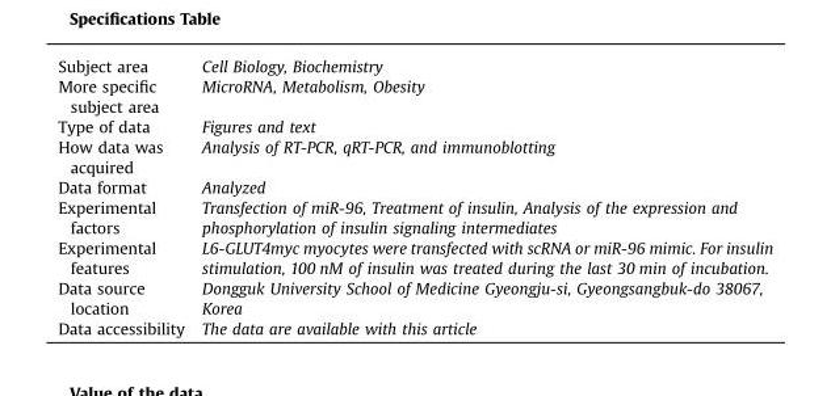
<table><thead><tr><td>Subject area</td><td>Cell Biology, Biochemistry</td></tr></thead><tbody><tr><td>More specific subject area</td><td>MicroRNA, Metabolism, Obesity</td></tr><tr><td>Type of data</td><td>Figures and text</td></tr><tr><td>How data was acquired</td><td>Analysis of RT-PCR, qRT-PCR, and immunoblotting</td></tr><tr><td>Data format</td><td>Analyzed</td></tr><tr><td>Experimental factors</td><td>Transfection of miR-96, Treatment of insulin, Analysis of the expression and phosphorylation of insulin signaling intermediates</td></tr><tr><td>Experimental features</td><td>L6-GLUT4myc myocytes were transfected with scRNA or miR-96 mimic. For insulin stimulation, 100 nM of insulin was treated during the last 30 min of incubation.</td></tr><tr><td>Data source location</td><td>Dongguk University School of Medicine Gyeongju-si, Gyeongsangbuk-do 38067, Korea</td></tr><tr><td>Data accessibility</td><td>The data are available with this article</td></tr></tbody></table>